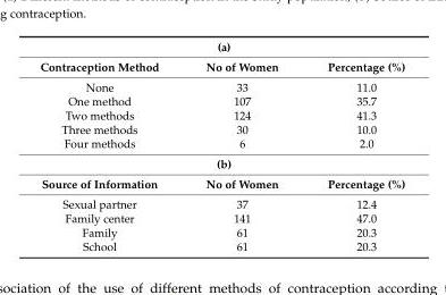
<table><tbody><tr><td colspan="3">(a)</td></tr><tr><td>Contraception Method</td><td>No of Women</td><td>Percentage (%)</td></tr><tr><td>None</td><td>33</td><td>11.0</td></tr><tr><td>One method</td><td>107</td><td>35.7</td></tr><tr><td>Two methods</td><td>124</td><td>41.3</td></tr><tr><td>Three methods</td><td>30</td><td>10.0</td></tr><tr><td>Four methods</td><td>6</td><td>2.0</td></tr><tr><td colspan="3">(b)</td></tr><tr><td>Source of Information</td><td>No of Women</td><td>Percentage (%)</td></tr><tr><td>Sexual partner</td><td>37</td><td>12.4</td></tr><tr><td>Family center</td><td>141</td><td>47.0</td></tr><tr><td>Family</td><td>61</td><td>20.3</td></tr><tr><td>School</td><td>61</td><td>20.3</td></tr></tbody></table>